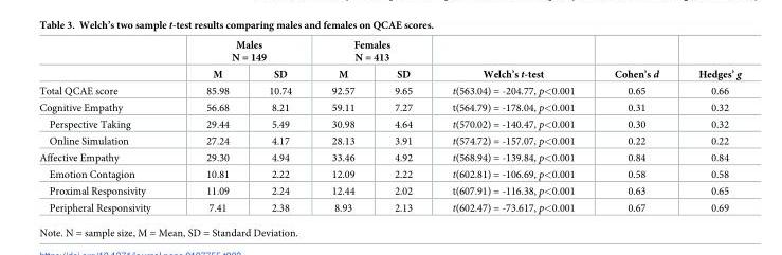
<table><thead><tr><td rowspan="2"></td><td colspan="2">Males N = 149</td><td colspan="2">Females N = 413</td><td rowspan="2">Welch’s t-test</td><td rowspan="2">Cohen’s d</td><td rowspan="2">Hedges’ g</td></tr><tr><td>M</td><td>SD</td><td>M</td><td>SD</td></tr></thead><tbody><tr><td>Total QCAE score</td><td>85.98</td><td>10.74</td><td>92.57</td><td>9.65</td><td>t(563.04) = -204.77, p&lt;0.001</td><td>0.65</td><td>0.66</td></tr><tr><td>Cognitive Empathy</td><td>56.68</td><td>8.21</td><td>59.11</td><td>7.27</td><td>t(564.79) = -178.04, p&lt;0.001</td><td>0.31</td><td>0.32</td></tr><tr><td>Perspective Taking</td><td>29.44</td><td>5.49</td><td>30.98</td><td>4.64</td><td>t(570.02) = -140.47, p&lt;0.001</td><td>0.30</td><td>0.32</td></tr><tr><td>Online Simulation</td><td>27.24</td><td>4.17</td><td>28.13</td><td>3.91</td><td>t(574.72) = -157.07, p&lt;0.001</td><td>0.22</td><td>0.22</td></tr><tr><td>Affective Empathy</td><td>29.30</td><td>4.94</td><td>33.46</td><td>4.92</td><td>t(568.94) = -139.84, p&lt;0.001</td><td>0.84</td><td>0.84</td></tr><tr><td>Emotion Contagion</td><td>10.81</td><td>2.22</td><td>12.09</td><td>2.22</td><td>t(602.81) = -106.69, p&lt;0.001</td><td>0.58</td><td>0.58</td></tr><tr><td>Proximal Responsivity</td><td>11.09</td><td>2.24</td><td>12.44</td><td>2.02</td><td>t(607.91) = -116.38, p&lt;0.001</td><td>0.63</td><td>0.65</td></tr><tr><td>Peripheral Responsivity</td><td>7.41</td><td>2.38</td><td>8.93</td><td>2.13</td><td>t(602.47) = -73.617, p&lt;0.001</td><td>0.67</td><td>0.69</td></tr></tbody></table>